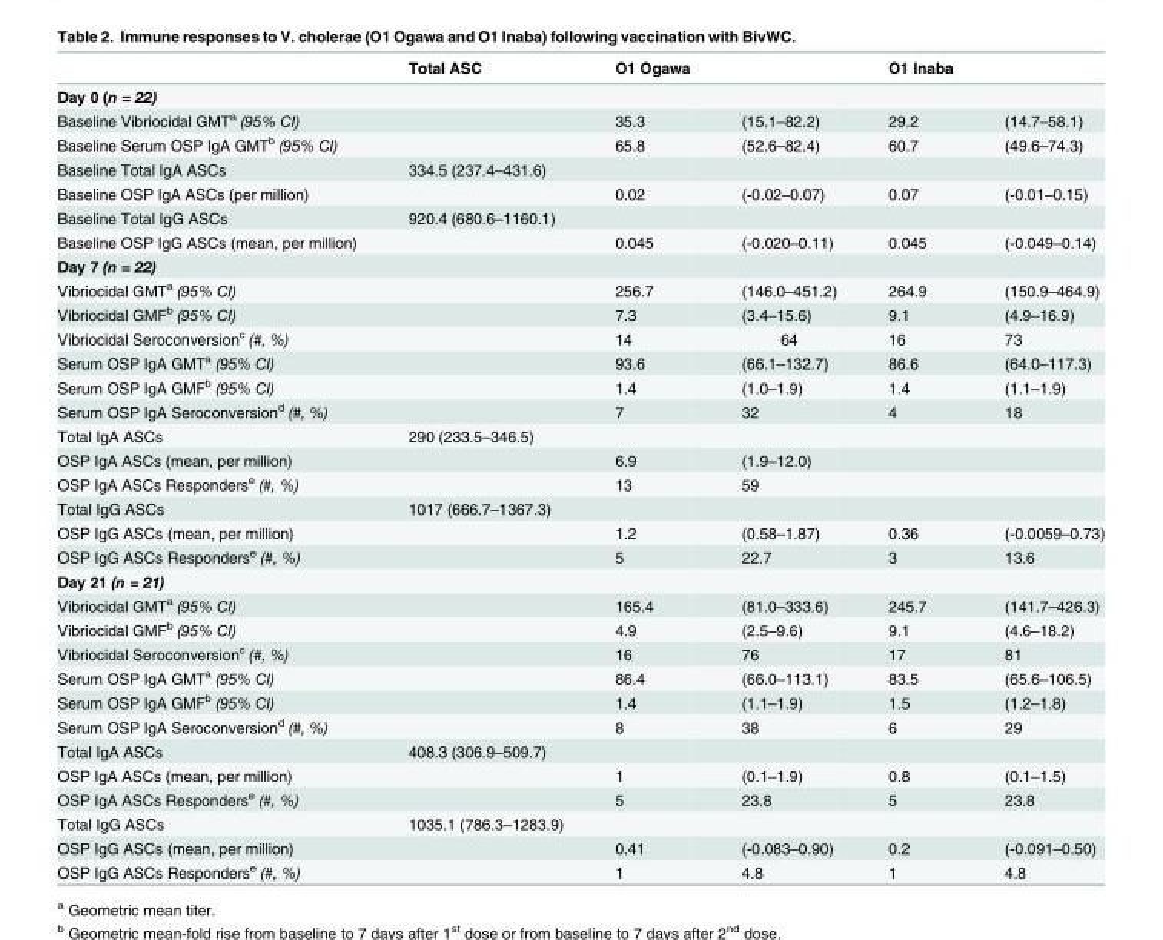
<table><thead><tr><td></td><td>Total ASC</td><td>O1 Ogawa</td><td></td><td>O1 Inaba</td><td></td></tr></thead><tbody><tr><td colspan="6">Day 0 (n = 22)</td></tr><tr><td>Baseline Vibriocidal GMT<sup>a</sup> (95% CI)</td><td></td><td>35.3</td><td>(15.1–82.2)</td><td>29.2</td><td>(14.7–58.1)</td></tr><tr><td>Baseline Serum OSP IgA GMT<sup>b</sup> (95% CI)</td><td></td><td>65.8</td><td>(52.6–82.4)</td><td>60.7</td><td>(49.6–74.3)</td></tr><tr><td>Baseline Total IgA ASCs</td><td>334.5 (237.4–431.6)</td><td></td><td></td><td></td><td></td></tr><tr><td>Baseline OSP IgA ASCs (per million)</td><td></td><td>0.02</td><td>(-0.02–0.07)</td><td>0.07</td><td>(-0.01–0.15)</td></tr><tr><td>Baseline Total IgG ASCs</td><td>920.4 (680.6–1160.1)</td><td></td><td></td><td></td><td></td></tr><tr><td>Baseline OSP IgG ASCs (mean, per million)</td><td></td><td>0.045</td><td>(-0.020–0.11)</td><td>0.045</td><td>(-0.049–0.14)</td></tr><tr><td colspan="6">Day 7 (n = 22)</td></tr><tr><td>Vibriocidal GMT<sup>a</sup> (95% CI)</td><td></td><td>256.7</td><td>(146.0–451.2)</td><td>264.9</td><td>(150.9–464.9)</td></tr><tr><td>Vibriocidal GMF<sup>b</sup> (95% CI)</td><td></td><td>7.3</td><td>(3.4–15.6)</td><td>9.1</td><td>(4.9–16.9)</td></tr><tr><td>Vibriocidal Seroconversion<sup>c</sup> (#, %)</td><td></td><td>14</td><td>64</td><td>16</td><td>73</td></tr><tr><td>Serum OSP IgA GMT<sup>a</sup> (95% CI)</td><td></td><td>93.6</td><td>(66.1–132.7)</td><td>86.6</td><td>(64.0–117.3)</td></tr><tr><td>Serum OSP IgA GMF<sup>b</sup> (95% CI)</td><td></td><td>1.4</td><td>(1.0–1.9)</td><td>1.4</td><td>(1.1–1.9)</td></tr><tr><td>Serum OSP IgA Seroconversion<sup>d</sup> (#, %)</td><td></td><td>7</td><td>32</td><td>4</td><td>18</td></tr><tr><td>Total IgA ASCs</td><td>290 (233.5–346.5)</td><td></td><td></td><td></td><td></td></tr><tr><td>OSP IgA ASCs (mean, per million)</td><td></td><td>6.9</td><td>(1.9–12.0)</td><td></td><td></td></tr><tr><td>OSP IgA ASCs Responders<sup>e</sup> (#, %)</td><td></td><td>13</td><td>59</td><td></td><td></td></tr><tr><td>Total IgG ASCs</td><td>1017 (666.7–1367.3)</td><td></td><td></td><td></td><td></td></tr><tr><td>OSP IgG ASCs (mean, per million)</td><td></td><td>1.2</td><td>(0.58–1.87)</td><td>0.36</td><td>(-0.0059–0.73)</td></tr><tr><td>OSP IgG ASCs Responders<sup>e</sup> (#, %)</td><td></td><td>5</td><td>22.7</td><td>3</td><td>13.6</td></tr><tr><td colspan="6">Day 21 (n = 21)</td></tr><tr><td>Vibriocidal GMT<sup>a</sup> (95% CI)</td><td></td><td>165.4</td><td>(81.0–333.6)</td><td>245.7</td><td>(141.7–426.3)</td></tr><tr><td>Vibriocidal GMF<sup>b</sup> (95% CI)</td><td></td><td>4.9</td><td>(2.5–9.6)</td><td>9.1</td><td>(4.6–18.2)</td></tr><tr><td>Vibriocidal Seroconversion<sup>c</sup> (#, %)</td><td></td><td>16</td><td>76</td><td>17</td><td>81</td></tr><tr><td>Serum OSP IgA GMT<sup>a</sup> (95% CI)</td><td></td><td>86.4</td><td>(66.0–113.1)</td><td>83.5</td><td>(65.6–106.5)</td></tr><tr><td>Serum OSP IgA GMF<sup>b</sup> (95% CI)</td><td></td><td>1.4</td><td>(1.1–1.9)</td><td>1.5</td><td>(1.2–1.8)</td></tr><tr><td>Serum OSP IgA Seroconversion<sup>d</sup> (#, %)</td><td></td><td>8</td><td>38</td><td>6</td><td>29</td></tr><tr><td>Total IgA ASCs</td><td>408.3 (306.9–509.7)</td><td></td><td></td><td></td><td></td></tr><tr><td>OSP IgA ASCs (mean, per million)</td><td></td><td>1</td><td>(0.1–1.9)</td><td>0.8</td><td>(0.1–1.5)</td></tr><tr><td>OSP IgA ASCs Responders<sup>e</sup> (#, %)</td><td></td><td>5</td><td>23.8</td><td>5</td><td>23.8</td></tr><tr><td>Total IgG ASCs</td><td>1035.1 (786.3–1283.9)</td><td></td><td></td><td></td><td></td></tr><tr><td>OSP IgG ASCs (mean, per million)</td><td></td><td>0.41</td><td>(-0.083–0.90)</td><td>0.2</td><td>(-0.091–0.50)</td></tr><tr><td>OSP IgG ASCs Responders<sup>e</sup> (#, %)</td><td></td><td>1</td><td>4.8</td><td>1</td><td>4.8</td></tr></tbody></table>